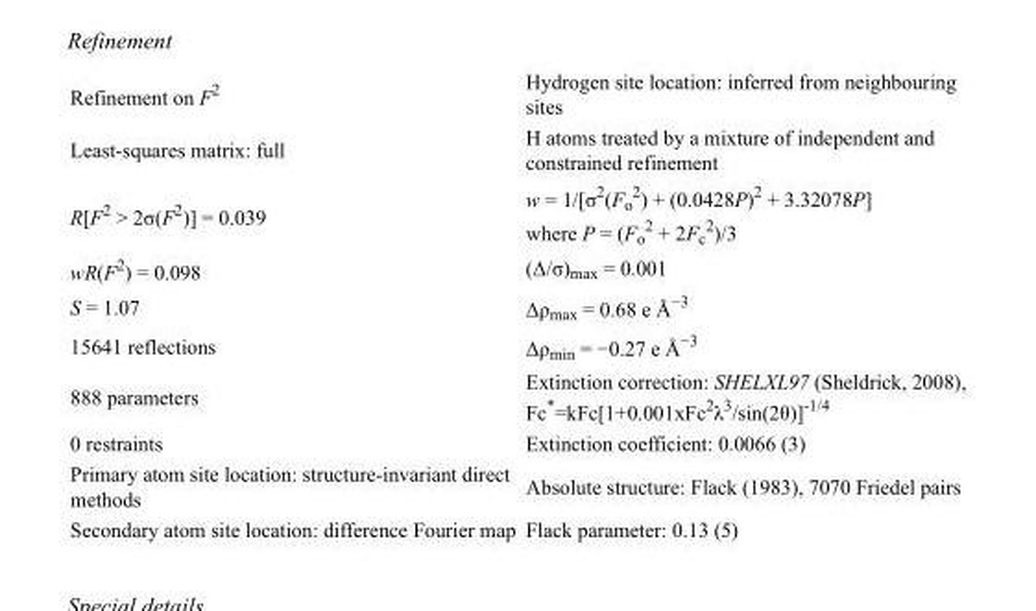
<table><tbody><tr><td>Refinement on F<sup>2</sup></td><td>Hydrogen site location: inferred from neighbouring sites</td></tr><tr><td>Least-squares matrix: full</td><td>H atoms treated by a mixture of independent and constrained refinement</td></tr><tr><td>R[F<sup>2</sup> &gt; 2σ(F<sup>2</sup>)] = 0.039</td><td>w = 1/[σ<sup>2</sup>(F<sub>o</sub> <sup>2</sup>) + (0.0428P)<sup>2</sup> + 3.32078P] where P = (F<sub>o</sub> <sup>2</sup> + 2F<sub>c</sub> <sup>2</sup>)/3</td></tr><tr><td>wR(F<sup>2</sup>) = 0.098</td><td>(Δ/σ)<sub>max</sub> = 0.001</td></tr><tr><td>S = 1.07</td><td>Δρ<sub>max</sub> = 0.68 e Å<sup>−3</sup></td></tr><tr><td>15641 reflections</td><td>Δρ<sub>min</sub> = −0.27 e Å<sup>−3</sup></td></tr><tr><td>888 parameters</td><td>Extinction correction: SHELXL97 (Sheldrick, 2008), Fc*=kFc[1+0.001xFc<sup>2</sup>λ<sup>3</sup>/sin(2θ)]<sup>-1/4</sup></td></tr><tr><td>0 restraints</td><td>Extinction coefficient: 0.0066 (3)</td></tr><tr><td>Primary atom site location: structure-invariant direct methods</td><td>Absolute structure: Flack (1983), 7070 Friedel pairs</td></tr><tr><td>Secondary atom site location: difference Fourier map</td><td>Flack parameter: 0.13 (5)</td></tr></tbody></table>